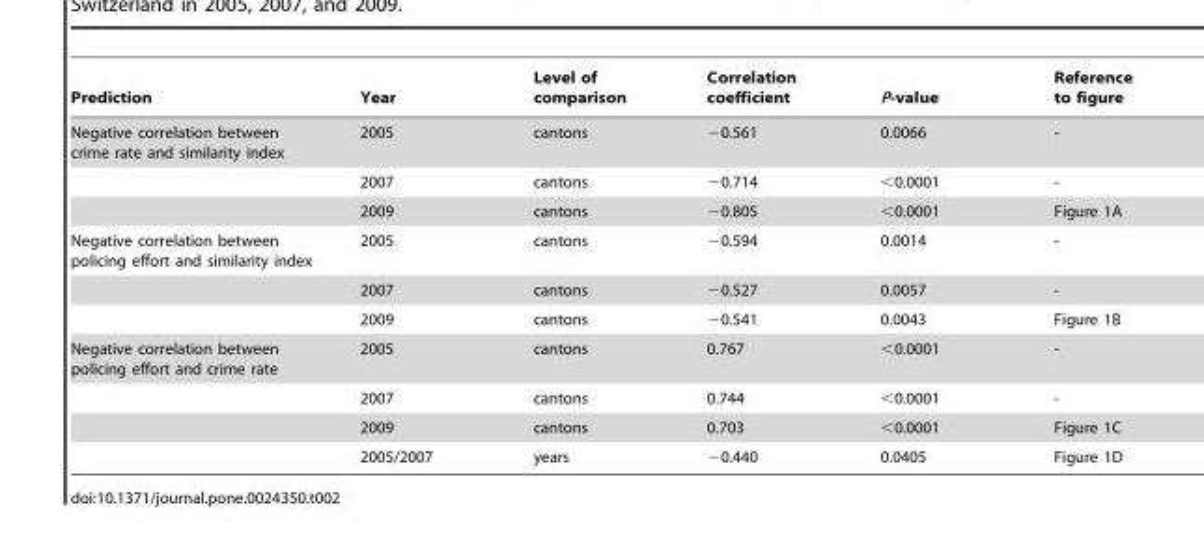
<table><thead><tr><td>Prediction</td><td>Year</td><td>Level of comparison</td><td>Correlation coefficient</td><td>P-value</td><td>Reference to figure</td></tr></thead><tbody><tr><td rowspan="3">Negative correlation between crime rate and similarity index</td><td>2005</td><td>cantons</td><td>−0.561</td><td>0.0066</td><td>-</td></tr><tr><td>2007</td><td>cantons</td><td>−0.714</td><td>&lt;0.0001</td><td>-</td></tr><tr><td>2009</td><td>cantons</td><td>−0.805</td><td>&lt;0.0001</td><td>Figure 1A</td></tr><tr><td rowspan="3">Negative correlation between policing effort and similarity index</td><td>2005</td><td>cantons</td><td>−0.594</td><td>0.0014</td><td>-</td></tr><tr><td>2007</td><td>cantons</td><td>−0.527</td><td>0.0057</td><td>-</td></tr><tr><td>2009</td><td>cantons</td><td>−0.541</td><td>0.0043</td><td>Figure 1B</td></tr><tr><td rowspan="4">Negative correlation between policing effort and crime rate</td><td>2005</td><td>cantons</td><td>0.767</td><td>&lt;0.0001</td><td>-</td></tr><tr><td>2007</td><td>cantons</td><td>0.744</td><td>&lt;0.0001</td><td>-</td></tr><tr><td>2009</td><td>cantons</td><td>0.703</td><td>&lt;0.0001</td><td>Figure 1C</td></tr><tr><td>2005/2007</td><td>years</td><td>−0.440</td><td>0.0405</td><td>Figure 1D</td></tr></tbody></table>